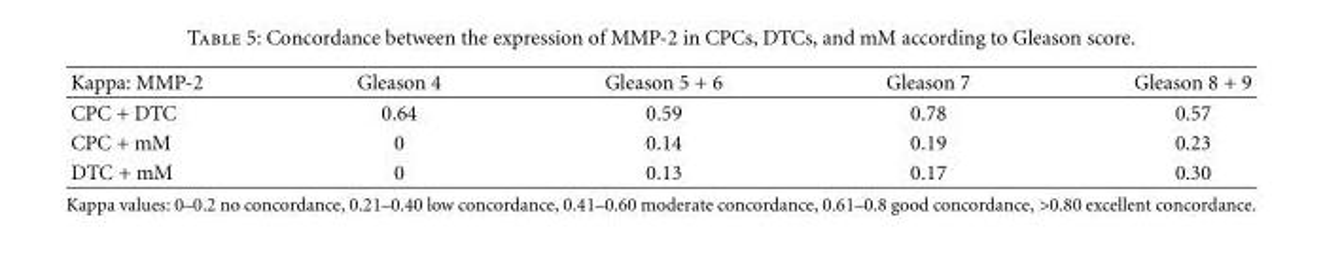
<table><thead><tr><td>Kappa: MMP-2</td><td>Gleason 4</td><td>Gleason 5 + 6</td><td>Gleason 7</td><td>Gleason 8 + 9</td></tr></thead><tbody><tr><td>CPC + DTC</td><td>0.64</td><td>0.59</td><td>0.78</td><td>0.57</td></tr><tr><td>CPC + mM</td><td>0</td><td>0.14</td><td>0.19</td><td>0.23</td></tr><tr><td>DTC + mM</td><td>0</td><td>0.13</td><td>0.17</td><td>0.30</td></tr></tbody></table>